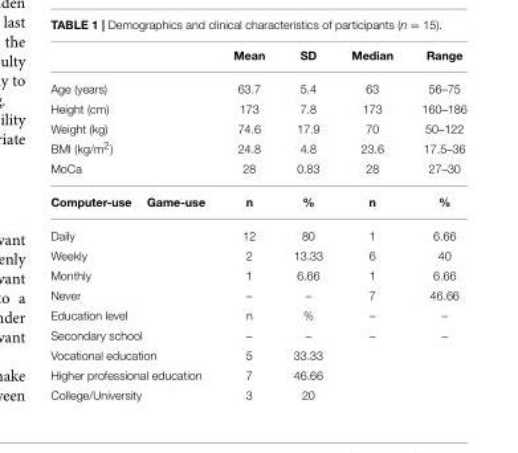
<table><thead><tr><td></td><td>Mean</td><td>SD</td><td>Median</td><td>Range</td></tr></thead><tbody><tr><td>Age (years)</td><td>63.7</td><td>5.4</td><td>63</td><td>56–75</td></tr><tr><td>Height (cm)</td><td>173</td><td>7.8</td><td>173</td><td>160–186</td></tr><tr><td>Weight (kg)</td><td>74.6</td><td>17.9</td><td>70</td><td>50–122</td></tr><tr><td>BMI (kg/m<sup>2</sup>)</td><td>24.8</td><td>4.8</td><td>23.6</td><td>17.5–36</td></tr><tr><td>MoCa</td><td>28</td><td>0.83</td><td>28</td><td>27–30</td></tr><tr><td>Computer-use Game-use</td><td>n</td><td>%</td><td>n</td><td>%</td></tr><tr><td>Daily</td><td>12</td><td>80</td><td>1</td><td>6.66</td></tr><tr><td>Weekly</td><td>2</td><td>13.33</td><td>6</td><td>40</td></tr><tr><td>Monthly</td><td>1</td><td>6.66</td><td>1</td><td>6.66</td></tr><tr><td>Never</td><td>–</td><td>–</td><td>7</td><td>46.66</td></tr><tr><td>Education level</td><td>n</td><td>%</td><td>–</td><td>–</td></tr><tr><td>Secondary school</td><td>–</td><td>–</td><td>–</td><td>–</td></tr><tr><td>Vocational education</td><td>5</td><td>33.33</td><td></td><td></td></tr><tr><td>Higher professional education</td><td>7</td><td>46.66</td><td></td><td></td></tr><tr><td>College/University</td><td>3</td><td>20</td><td></td><td></td></tr></tbody></table>